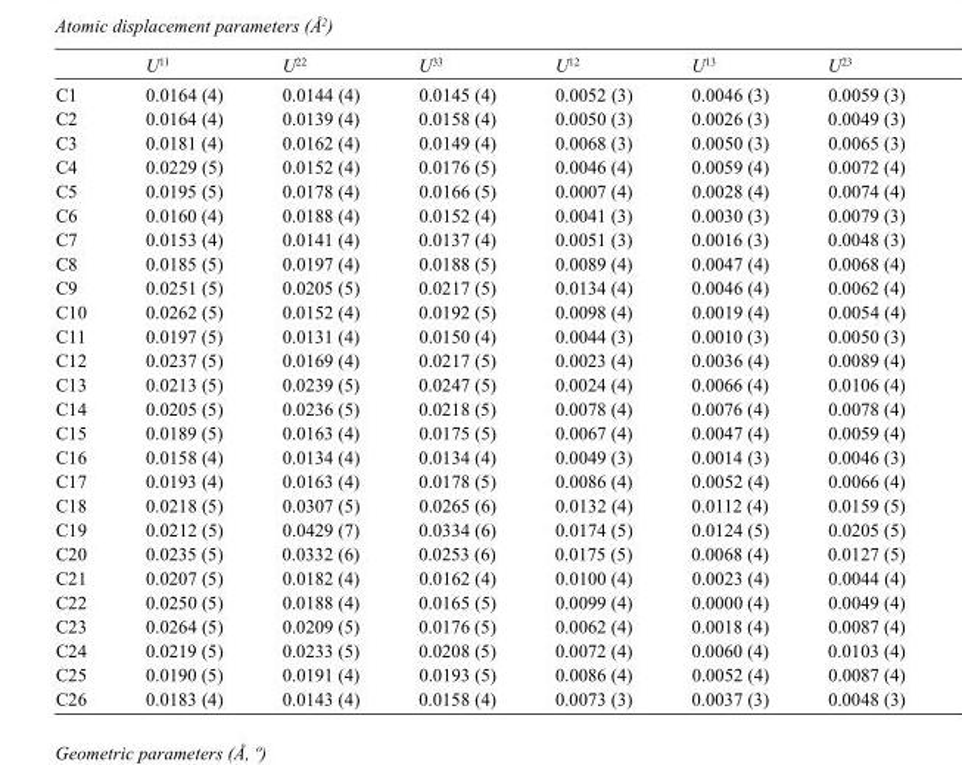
<table><thead><tr><td></td><td>U<sup>11</sup></td><td>U<sup>22</sup></td><td>U<sup>33</sup></td><td>U<sup>12</sup></td><td>U<sup>13</sup></td><td>U<sup>23</sup></td></tr></thead><tbody><tr><td>C1</td><td>0.0164 (4)</td><td>0.0144 (4)</td><td>0.0145 (4)</td><td>0.0052 (3)</td><td>0.0046 (3)</td><td>0.0059 (3)</td></tr><tr><td>C2</td><td>0.0164 (4)</td><td>0.0139 (4)</td><td>0.0158 (4)</td><td>0.0050 (3)</td><td>0.0026 (3)</td><td>0.0049 (3)</td></tr><tr><td>C3</td><td>0.0181 (4)</td><td>0.0162 (4)</td><td>0.0149 (4)</td><td>0.0068 (3)</td><td>0.0050 (3)</td><td>0.0065 (3)</td></tr><tr><td>C4</td><td>0.0229 (5)</td><td>0.0152 (4)</td><td>0.0176 (5)</td><td>0.0046 (4)</td><td>0.0059 (4)</td><td>0.0072 (4)</td></tr><tr><td>C5</td><td>0.0195 (5)</td><td>0.0178 (4)</td><td>0.0166 (5)</td><td>0.0007 (4)</td><td>0.0028 (4)</td><td>0.0074 (4)</td></tr><tr><td>C6</td><td>0.0160 (4)</td><td>0.0188 (4)</td><td>0.0152 (4)</td><td>0.0041 (3)</td><td>0.0030 (3)</td><td>0.0079 (3)</td></tr><tr><td>C7</td><td>0.0153 (4)</td><td>0.0141 (4)</td><td>0.0137 (4)</td><td>0.0051 (3)</td><td>0.0016 (3)</td><td>0.0048 (3)</td></tr><tr><td>C8</td><td>0.0185 (5)</td><td>0.0197 (4)</td><td>0.0188 (5)</td><td>0.0089 (4)</td><td>0.0047 (4)</td><td>0.0068 (4)</td></tr><tr><td>C9</td><td>0.0251 (5)</td><td>0.0205 (5)</td><td>0.0217 (5)</td><td>0.0134 (4)</td><td>0.0046 (4)</td><td>0.0062 (4)</td></tr><tr><td>C10</td><td>0.0262 (5)</td><td>0.0152 (4)</td><td>0.0192 (5)</td><td>0.0098 (4)</td><td>0.0019 (4)</td><td>0.0054 (4)</td></tr><tr><td>C11</td><td>0.0197 (5)</td><td>0.0131 (4)</td><td>0.0150 (4)</td><td>0.0044 (3)</td><td>0.0010 (3)</td><td>0.0050 (3)</td></tr><tr><td>C12</td><td>0.0237 (5)</td><td>0.0169 (4)</td><td>0.0217 (5)</td><td>0.0023 (4)</td><td>0.0036 (4)</td><td>0.0089 (4)</td></tr><tr><td>C13</td><td>0.0213 (5)</td><td>0.0239 (5)</td><td>0.0247 (5)</td><td>0.0024 (4)</td><td>0.0066 (4)</td><td>0.0106 (4)</td></tr><tr><td>C14</td><td>0.0205 (5)</td><td>0.0236 (5)</td><td>0.0218 (5)</td><td>0.0078 (4)</td><td>0.0076 (4)</td><td>0.0078 (4)</td></tr><tr><td>C15</td><td>0.0189 (5)</td><td>0.0163 (4)</td><td>0.0175 (5)</td><td>0.0067 (4)</td><td>0.0047 (4)</td><td>0.0059 (4)</td></tr><tr><td>C16</td><td>0.0158 (4)</td><td>0.0134 (4)</td><td>0.0134 (4)</td><td>0.0049 (3)</td><td>0.0014 (3)</td><td>0.0046 (3)</td></tr><tr><td>C17</td><td>0.0193 (4)</td><td>0.0163 (4)</td><td>0.0178 (5)</td><td>0.0086 (4)</td><td>0.0052 (4)</td><td>0.0066 (4)</td></tr><tr><td>C18</td><td>0.0218 (5)</td><td>0.0307 (5)</td><td>0.0265 (6)</td><td>0.0132 (4)</td><td>0.0112 (4)</td><td>0.0159 (5)</td></tr><tr><td>C19</td><td>0.0212 (5)</td><td>0.0429 (7)</td><td>0.0334 (6)</td><td>0.0174 (5)</td><td>0.0124 (5)</td><td>0.0205 (5)</td></tr><tr><td>C20</td><td>0.0235 (5)</td><td>0.0332 (6)</td><td>0.0253 (6)</td><td>0.0175 (5)</td><td>0.0068 (4)</td><td>0.0127 (5)</td></tr><tr><td>C21</td><td>0.0207 (5)</td><td>0.0182 (4)</td><td>0.0162 (4)</td><td>0.0100 (4)</td><td>0.0023 (4)</td><td>0.0044 (4)</td></tr><tr><td>C22</td><td>0.0250 (5)</td><td>0.0188 (4)</td><td>0.0165 (5)</td><td>0.0099 (4)</td><td>0.0000 (4)</td><td>0.0049 (4)</td></tr><tr><td>C23</td><td>0.0264 (5)</td><td>0.0209 (5)</td><td>0.0176 (5)</td><td>0.0062 (4)</td><td>0.0018 (4)</td><td>0.0087 (4)</td></tr><tr><td>C24</td><td>0.0219 (5)</td><td>0.0233 (5)</td><td>0.0208 (5)</td><td>0.0072 (4)</td><td>0.0060 (4)</td><td>0.0103 (4)</td></tr><tr><td>C25</td><td>0.0190 (5)</td><td>0.0191 (4)</td><td>0.0193 (5)</td><td>0.0086 (4)</td><td>0.0052 (4)</td><td>0.0087 (4)</td></tr><tr><td>C26</td><td>0.0183 (4)</td><td>0.0143 (4)</td><td>0.0158 (4)</td><td>0.0073 (3)</td><td>0.0037 (3)</td><td>0.0048 (3)</td></tr></tbody></table>